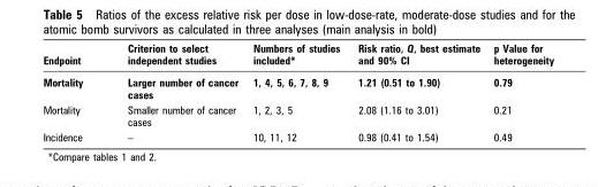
<table><thead><tr><td>Endpoint</td><td>Criterion to select independent studies</td><td>Numbers of studies included*</td><td>Risk ratio, Q, best estimate and 90% CI</td><td>p Value for heterogeneity</td></tr></thead><tbody><tr><td>Mortality</td><td>Larger number of cancer cases</td><td>1, 4, 5, 6, 7, 8, 9</td><td>1.21 (0.51 to 1.90)</td><td>0.79</td></tr><tr><td>Mortality</td><td>Smaller number of cancer cases</td><td>1, 2, 3, 5</td><td>2.08 (1.16 to 3.01)</td><td>0.21</td></tr><tr><td>Incidence</td><td>–</td><td>10, 11, 12</td><td>0.98 (0.41 to 1.54)</td><td>0.49</td></tr></tbody></table>